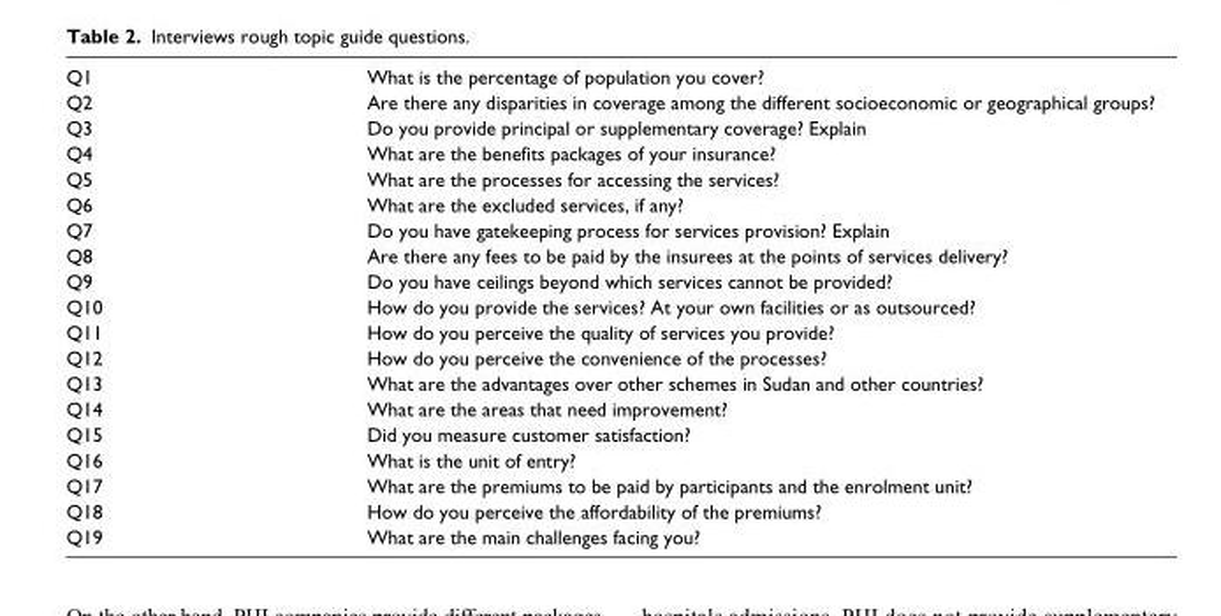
<table><tbody><tr><td>Q1</td><td>What is the percentage of population you cover?</td></tr><tr><td>Q2</td><td>Are there any disparities in coverage among the different socioeconomic or geographical groups?</td></tr><tr><td>Q3</td><td>Do you provide principal or supplementary coverage? Explain</td></tr><tr><td>Q4</td><td>What are the benefits packages of your insurance?</td></tr><tr><td>Q5</td><td>What are the processes for accessing the services?</td></tr><tr><td>Q6</td><td>What are the excluded services, if any?</td></tr><tr><td>Q7</td><td>Do you have gatekeeping process for services provision? Explain</td></tr><tr><td>Q8</td><td>Are there any fees to be paid by the insurees at the points of services delivery?</td></tr><tr><td>Q9</td><td>Do you have ceilings beyond which services cannot be provided?</td></tr><tr><td>Q10</td><td>How do you provide the services? At your own facilities or as outsourced?</td></tr><tr><td>Q11</td><td>How do you perceive the quality of services you provide?</td></tr><tr><td>Q12</td><td>How do you perceive the convenience of the processes?</td></tr><tr><td>Q13</td><td>What are the advantages over other schemes in Sudan and other countries?</td></tr><tr><td>Q14</td><td>What are the areas that need improvement?</td></tr><tr><td>Q15</td><td>Did you measure customer satisfaction?</td></tr><tr><td>Q16</td><td>What is the unit of entry?</td></tr><tr><td>Q17</td><td>What are the premiums to be paid by participants and the enrolment unit?</td></tr><tr><td>Q18</td><td>How do you perceive the affordability of the premiums?</td></tr><tr><td>Q19</td><td>What are the main challenges facing you?</td></tr></tbody></table>